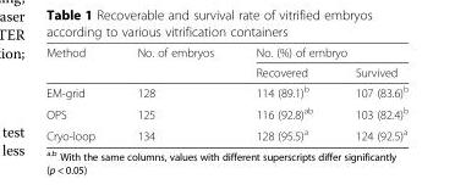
<table><thead><tr><td rowspan="2">Method</td><td rowspan="2">No. of embryos</td><td colspan="2">No. (%) of embryo</td></tr><tr><td>Recovered</td><td>Survived</td></tr></thead><tbody><tr><td>EM-grid</td><td>128</td><td>114 (89.1)<sup>b</sup></td><td>107 (83.6)<sup>b</sup></td></tr><tr><td>OPS</td><td>125</td><td>116 (92.8)<sup>ab</sup></td><td>103 (82.4)<sup>b</sup></td></tr><tr><td>Cryo-loop</td><td>134</td><td>128 (95.5)<sup>a</sup></td><td>124 (92.5)<sup>a</sup></td></tr></tbody></table>